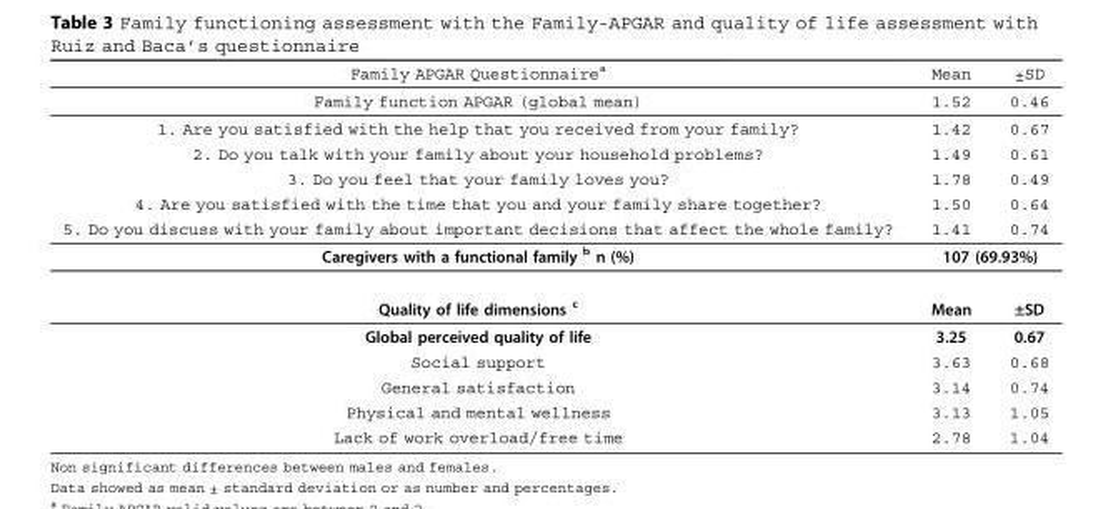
<table><thead><tr><td>Family APGAR Questionnaire<sup>a</sup></td><td>Mean</td><td>±SD</td></tr></thead><tbody><tr><td>Family function APGAR (global mean)</td><td>1.52</td><td>0.46</td></tr><tr><td>1. Are you satisfied with the help that you received from your family?</td><td>1.42</td><td>0.67</td></tr><tr><td>2. Do you talk with your family about your household problems?</td><td>1.49</td><td>0.61</td></tr><tr><td>3. Do you feel that your family loves you?</td><td>1.78</td><td>0.49</td></tr><tr><td>4. Are you satisfied with the time that you and your family share together?</td><td>1.50</td><td>0.64</td></tr><tr><td>5. Do you discuss with your family about important decisions that affect the whole family?</td><td>1.41</td><td>0.74</td></tr><tr><td>Caregivers with a functional family <sup>b</sup> n (%)</td><td colspan="2">107 (69.93%)</td></tr><tr><td>Quality of life dimensions <sup>c</sup></td><td>Mean</td><td>±SD</td></tr><tr><td>Global perceived quality of life</td><td>3.25</td><td>0.67</td></tr><tr><td>Social support</td><td>3.63</td><td>0.68</td></tr><tr><td>General satisfaction</td><td>3.14</td><td>0.74</td></tr><tr><td>Physical and mental wellness</td><td>3.13</td><td>1.05</td></tr><tr><td>Lack of work overload/free time</td><td>2.78</td><td>1.04</td></tr></tbody></table>